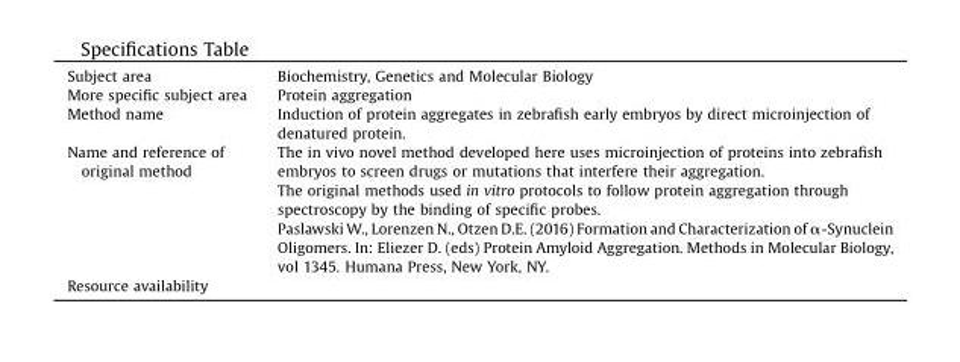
<table><tbody><tr><td>Subject area</td><td>Biochemistry, Genetics and Molecular Biology</td></tr><tr><td>More specific subject area</td><td>Protein aggregation</td></tr><tr><td>Method name</td><td>Induction of protein aggregates in zebrafish early embryos by direct microinjection of denatured protein.</td></tr><tr><td rowspan="3">Name and reference of original method</td><td>The in vivo novel method developed here uses microinjection of proteins into zebrafish embryos to screen drugs or mutations that interfere their aggregation.</td></tr><tr><td>The original methods used in vitro protocols to follow protein aggregation through spectroscopy by the binding of specific probes.</td></tr><tr><td>Paslawski W., Lorenzen N., Otzen D.E. (2016) Formation and Characterization of α-Synuclein Oligomers. In: Eliezer D. (eds) Protein Amyloid Aggregation. Methods in Molecular Biology, vol 1345. Humana Press, New York, NY.</td></tr><tr><td>Resource availability</td><td></td></tr></tbody></table>